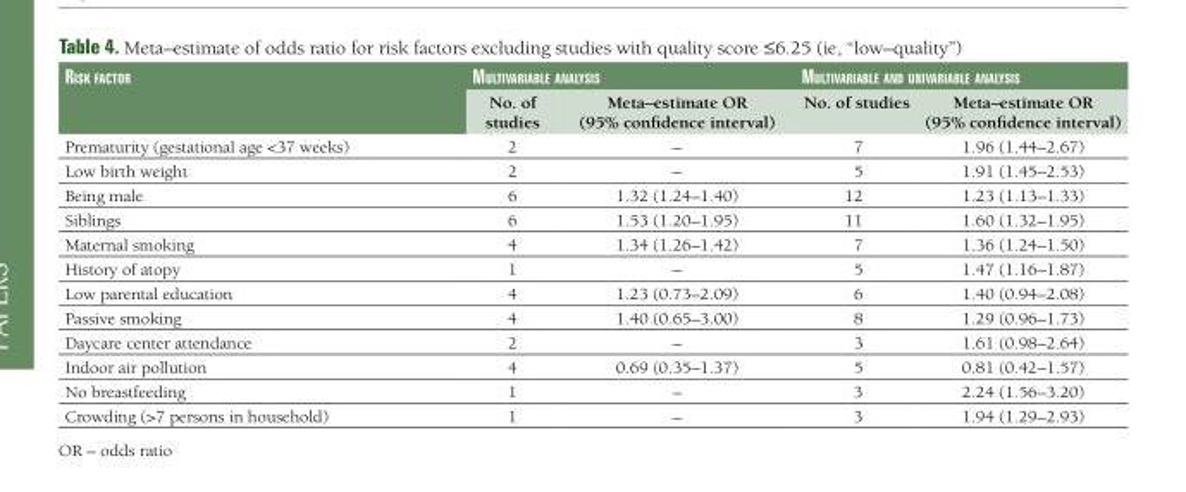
<table><thead><tr><td rowspan="2">Risk factoR</td><td colspan="2">multiVaRiable analysis</td><td colspan="2">multiVaRiable anD uniVaRiable analysis</td></tr><tr><td>No. of studies</td><td>Meta–estimate OR (95% confidence interval)</td><td>No. of studies</td><td>Meta–estimate OR (95% confidence interval)</td></tr></thead><tbody><tr><td>Prematurity (gestational age &lt;37 weeks)</td><td>2</td><td>–</td><td>7</td><td>1.96 (1.44–2.67)</td></tr><tr><td>Low birth weight</td><td>2</td><td>–</td><td>5</td><td>1.91 (1.45–2.53)</td></tr><tr><td>Being male</td><td>6</td><td>1.32 (1.24–1.40)</td><td>12</td><td>1.23 (1.13–1.33)</td></tr><tr><td>Siblings</td><td>6</td><td>1.53 (1.20–1.95)</td><td>11</td><td>1.60 (1.32–1.95)</td></tr><tr><td>Maternal smoking</td><td>4</td><td>1.34 (1.26–1.42)</td><td>7</td><td>1.36 (1.24–1.50)</td></tr><tr><td>History of atopy</td><td>1</td><td>–</td><td>5</td><td>1.47 (1.16–1.87)</td></tr><tr><td>Low parental education</td><td>4</td><td>1.23 (0.73–2.09)</td><td>6</td><td>1.40 (0.94–2.08)</td></tr><tr><td>Passive smoking</td><td>4</td><td>1.40 (0.65–3.00)</td><td>8</td><td>1.29 (0.96–1.73)</td></tr><tr><td>Daycare center attendance</td><td>2</td><td>–</td><td>3</td><td>1.61 (0.98–2.64)</td></tr><tr><td>Indoor air pollution</td><td>4</td><td>0.69 (0.35–1.37)</td><td>5</td><td>0.81 (0.42–1.57)</td></tr><tr><td>No breastfeeding</td><td>1</td><td>–</td><td>3</td><td>2.24 (1.56–3.20)</td></tr><tr><td>Crowding (&gt;7 persons in household)</td><td>1</td><td>–</td><td>3</td><td>1.94 (1.29–2.93)</td></tr></tbody></table>